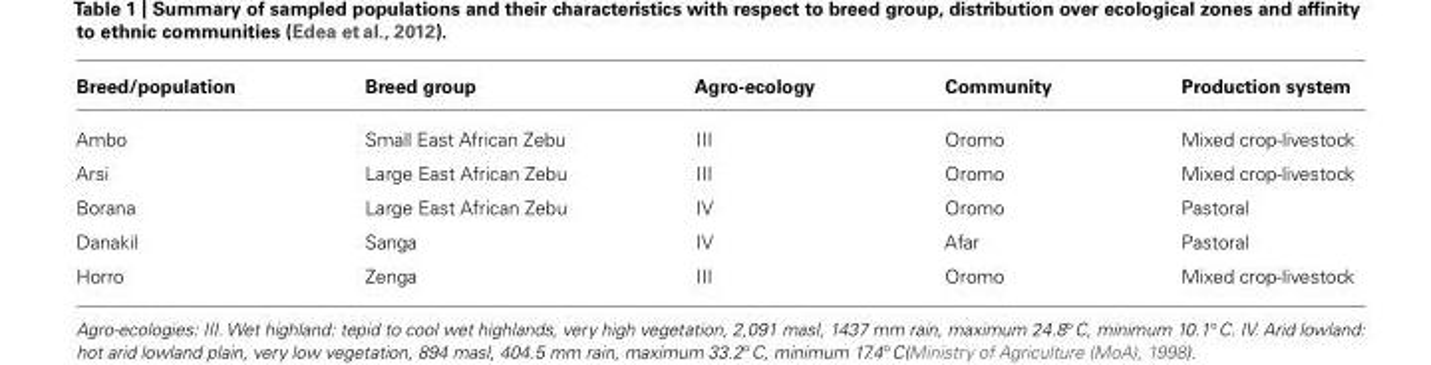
<table><thead><tr><td>Breed/population</td><td>Breed group</td><td>Agro-ecology</td><td>Community</td><td>Production system</td></tr></thead><tbody><tr><td>Ambo</td><td>Small East African Zebu</td><td>III</td><td>Oromo</td><td>Mixed crop-livestock</td></tr><tr><td>Arsi</td><td>Large East African Zebu</td><td>III</td><td>Oromo</td><td>Mixed crop-livestock</td></tr><tr><td>Borana</td><td>Large East African Zebu</td><td>IV</td><td>Oromo</td><td>Pastoral</td></tr><tr><td>Danakil</td><td>Sanga</td><td>IV</td><td>Afar</td><td>Pastoral</td></tr><tr><td>Horro</td><td>Zenga</td><td>III</td><td>Oromo</td><td>Mixed crop-livestock</td></tr></tbody></table>